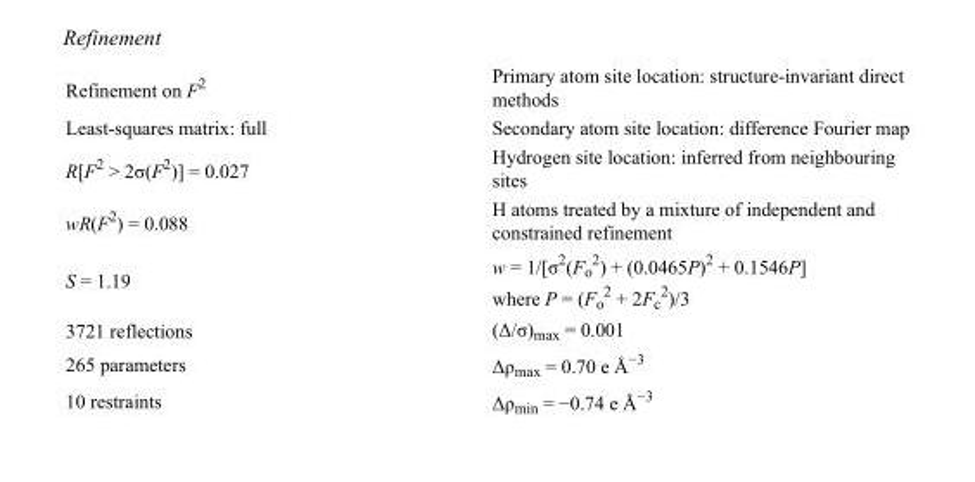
<table><tbody><tr><td>Refinement on F<sup>2</sup></td><td>Primary atom site location: structure-invariant direct methods</td></tr><tr><td>Least-squares matrix: full</td><td>Secondary atom site location: difference Fourier map</td></tr><tr><td>R[F<sup>2</sup> &gt; 2σ(F<sup>2</sup>)] = 0.027</td><td>Hydrogen site location: inferred from neighbouring sites</td></tr><tr><td>wR(F<sup>2</sup>) = 0.088</td><td>H atoms treated by a mixture of independent and constrained refinement</td></tr><tr><td>S = 1.19</td><td>w = 1/[σ<sup>2</sup>(F<sub>o</sub> <sup>2</sup>) + (0.0465P)<sup>2</sup> + 0.1546P] where P = (F<sub>o</sub> <sup>2</sup> + 2F<sub>c</sub> <sup>2</sup>)/3</td></tr><tr><td>3721 reflections</td><td>(Δ/σ)<sub>max</sub> = 0.001</td></tr><tr><td>265 parameters</td><td>Δρ<sub>max</sub> = 0.70 e Å<sup>−3</sup></td></tr><tr><td>10 restraints</td><td>Δρ<sub>min</sub> = −0.74 e Å<sup>−3</sup></td></tr></tbody></table>